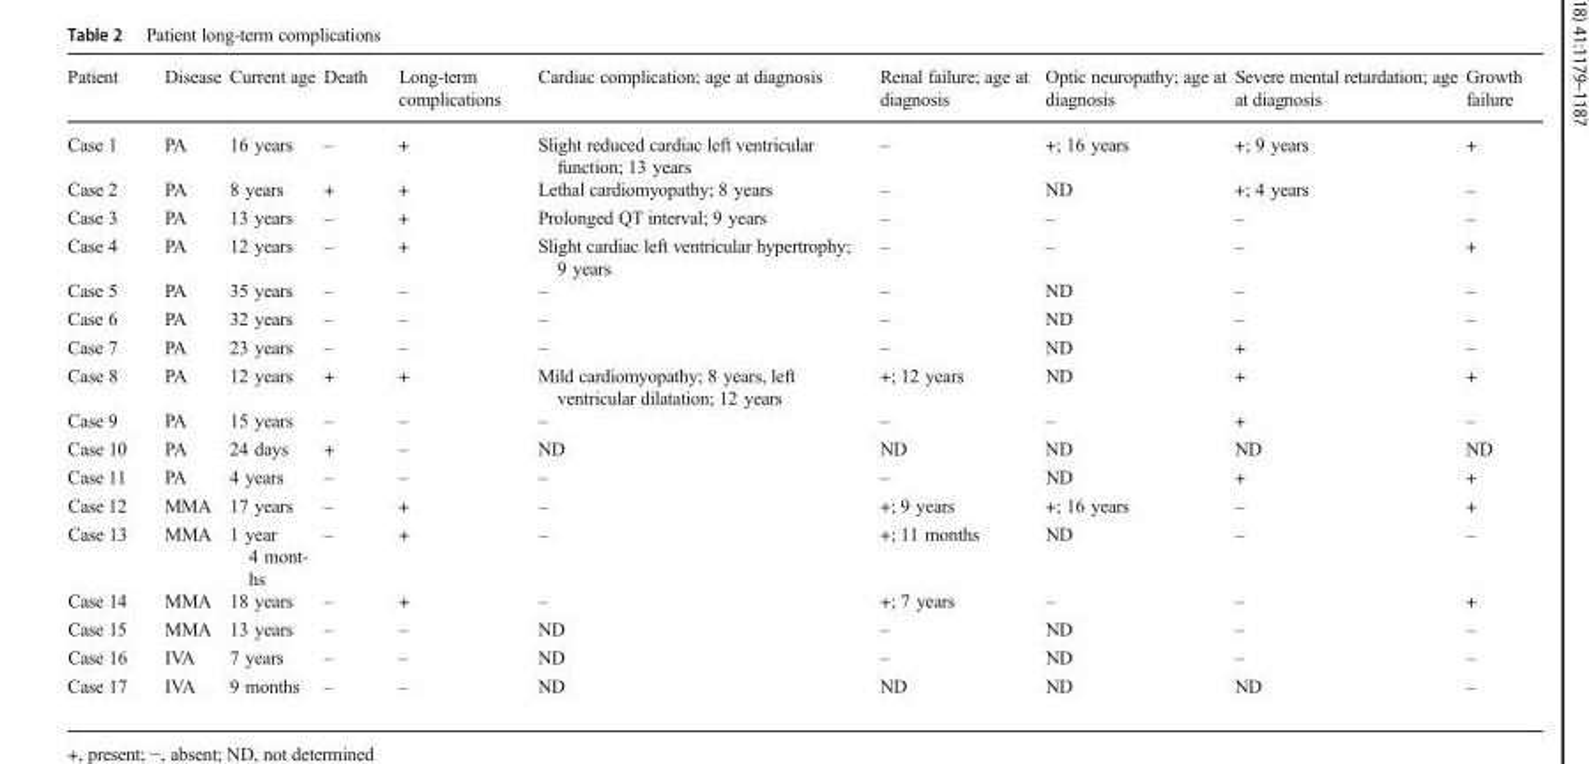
<table><thead><tr><td>Patient</td><td>Disease</td><td>Current age</td><td>Death</td><td>Long-term complications</td><td>Cardiac complication; age at diagnosis</td><td>Renal failure; age at diagnosis</td><td>Optic neuropathy; age at diagnosis</td><td>Severe mental retardation; age at diagnosis</td><td>Growth failure</td></tr></thead><tbody><tr><td>Case 1</td><td>PA</td><td>16 years</td><td>–</td><td>+</td><td>Slight reduced cardiac left ventricular function; 13 years</td><td>–</td><td>+; 16 years</td><td>+; 9 years</td><td>+</td></tr><tr><td>Case 2</td><td>PA</td><td>8 years</td><td>+</td><td>+</td><td>Lethal cardiomyopathy; 8 years</td><td>–</td><td>ND</td><td>+; 4 years</td><td>–</td></tr><tr><td>Case 3</td><td>PA</td><td>13 years</td><td>–</td><td>+</td><td>Prolonged QT interval; 9 years</td><td>–</td><td>–</td><td>–</td><td>–</td></tr><tr><td>Case 4</td><td>PA</td><td>12 years</td><td>–</td><td>+</td><td>Slight cardiac left ventricular hypertrophy; 9 years</td><td>–</td><td>–</td><td>–</td><td>+</td></tr><tr><td>Case 5</td><td>PA</td><td>35 years</td><td>–</td><td>–</td><td>–</td><td>–</td><td>ND</td><td>–</td><td>–</td></tr><tr><td>Case 6</td><td>PA</td><td>32 years</td><td>–</td><td>–</td><td>–</td><td>–</td><td>ND</td><td>–</td><td>–</td></tr><tr><td>Case 7</td><td>PA</td><td>23 years</td><td>–</td><td>–</td><td>–</td><td>–</td><td>ND</td><td>+</td><td>–</td></tr><tr><td>Case 8</td><td>PA</td><td>12 years</td><td>+</td><td>+</td><td>Mild cardiomyopathy; 8 years, left ventricular dilatation; 12 years</td><td>+; 12 years</td><td>ND</td><td>+</td><td>+</td></tr><tr><td>Case 9</td><td>PA</td><td>15 years</td><td>–</td><td>–</td><td>–</td><td>–</td><td>–</td><td>+</td><td>–</td></tr><tr><td>Case 10</td><td>PA</td><td>24 days</td><td>+</td><td>–</td><td>ND</td><td>ND</td><td>ND</td><td>ND</td><td>ND</td></tr><tr><td>Case 11</td><td>PA</td><td>4 years</td><td>–</td><td>–</td><td>–</td><td>–</td><td>ND</td><td>+</td><td>+</td></tr><tr><td>Case 12</td><td>MMA</td><td>17 years</td><td>–</td><td>+</td><td>–</td><td>+; 9 years</td><td>+; 16 years</td><td>–</td><td>+</td></tr><tr><td>Case 13</td><td>MMA</td><td>1 year 4 mont- hs</td><td>–</td><td>+</td><td>–</td><td>+; 11 months</td><td>ND</td><td>–</td><td>–</td></tr><tr><td>Case 14</td><td>MMA</td><td>18 years</td><td>–</td><td>+</td><td>–</td><td>+; 7 years</td><td>–</td><td>–</td><td>+</td></tr><tr><td>Case 15</td><td>MMA</td><td>13 years</td><td>–</td><td>–</td><td>ND</td><td>–</td><td>ND</td><td>–</td><td>–</td></tr><tr><td>Case 16</td><td>IVA</td><td>7 years</td><td>–</td><td>–</td><td>ND</td><td>–</td><td>ND</td><td>–</td><td>–</td></tr><tr><td>Case 17</td><td>IVA</td><td>9 months</td><td>–</td><td>–</td><td>ND</td><td>ND</td><td>ND</td><td>ND</td><td>–</td></tr></tbody></table>